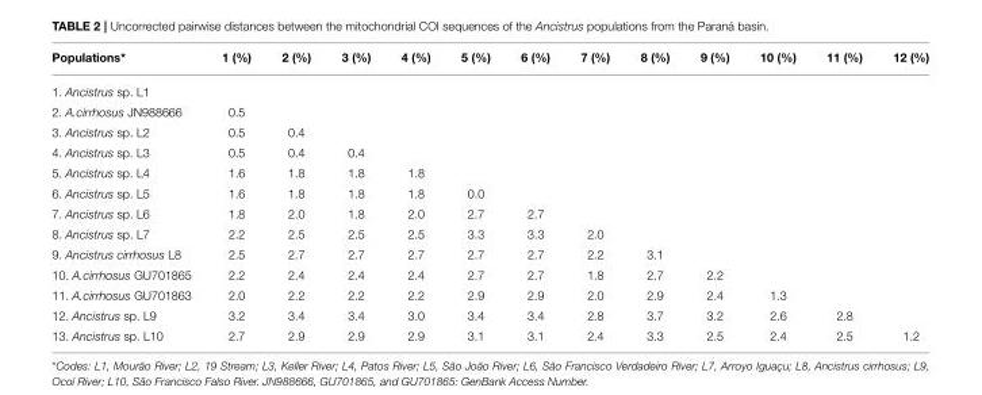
<table><thead><tr><td>Populations*</td><td>1 (%)</td><td>2 (%)</td><td>3 (%)</td><td>4 (%)</td><td>5 (%)</td><td>6 (%)</td><td>7 (%)</td><td>8 (%)</td><td>9 (%)</td><td>10 (%)</td><td>11 (%)</td><td>12 (%)</td></tr></thead><tbody><tr><td colspan="13">1. Ancistrus sp. L1</td></tr><tr><td>2. A.cirrhosus JN988666</td><td>0.5</td><td></td><td></td><td></td><td></td><td></td><td></td><td></td><td></td><td></td><td></td><td></td></tr><tr><td>3. Ancistrus sp. L2</td><td>0.5</td><td>0.4</td><td></td><td></td><td></td><td></td><td></td><td></td><td></td><td></td><td></td><td></td></tr><tr><td>4. Ancistrus sp. L3</td><td>0.5</td><td>0.4</td><td>0.4</td><td></td><td></td><td></td><td></td><td></td><td></td><td></td><td></td><td></td></tr><tr><td>5. Ancistrus sp. L4</td><td>1.6</td><td>1.8</td><td>1.8</td><td>1.8</td><td></td><td></td><td></td><td></td><td></td><td></td><td></td><td></td></tr><tr><td>6. Ancistrus sp. L5</td><td>1.6</td><td>1.8</td><td>1.8</td><td>1.8</td><td>0.0</td><td></td><td></td><td></td><td></td><td></td><td></td><td></td></tr><tr><td>7. Ancistrus sp. L6</td><td>1.8</td><td>2.0</td><td>1.8</td><td>2.0</td><td>2.7</td><td>2.7</td><td></td><td></td><td></td><td></td><td></td><td></td></tr><tr><td>8. Ancistrus sp. L7</td><td>2.2</td><td>2.5</td><td>2.5</td><td>2.5</td><td>3.3</td><td>3.3</td><td>2.0</td><td></td><td></td><td></td><td></td><td></td></tr><tr><td>9. Ancistrus cirrhosus L8</td><td>2.5</td><td>2.7</td><td>2.7</td><td>2.7</td><td>2.7</td><td>2.7</td><td>2.2</td><td>3.1</td><td></td><td></td><td></td><td></td></tr><tr><td>10. A.cirrhosus GU701865</td><td>2.2</td><td>2.4</td><td>2.4</td><td>2.4</td><td>2.7</td><td>2.7</td><td>1.8</td><td>2.7</td><td>2.2</td><td></td><td></td><td></td></tr><tr><td>11. A.cirrhosus GU701863</td><td>2.0</td><td>2.2</td><td>2.2</td><td>2.2</td><td>2.9</td><td>2.9</td><td>2.0</td><td>2.9</td><td>2.4</td><td>1.3</td><td></td><td></td></tr><tr><td>12. Ancistrus sp. L9</td><td>3.2</td><td>3.4</td><td>3.4</td><td>3.0</td><td>3.4</td><td>3.4</td><td>2.8</td><td>3.7</td><td>3.2</td><td>2.6</td><td>2.8</td><td></td></tr><tr><td>13. Ancistrus sp. L10</td><td>2.7</td><td>2.9</td><td>2.9</td><td>2.9</td><td>3.1</td><td>3.1</td><td>2.4</td><td>3.3</td><td>2.5</td><td>2.4</td><td>2.5</td><td>1.2</td></tr></tbody></table>